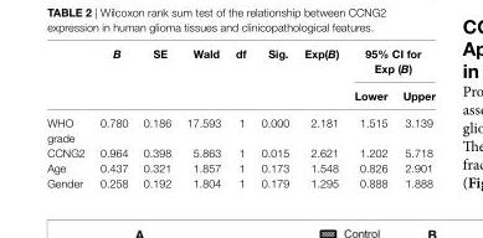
<table><thead><tr><td rowspan="2"></td><td rowspan="2">B</td><td rowspan="2">se</td><td rowspan="2">Wald</td><td rowspan="2">df</td><td rowspan="2">sig.</td><td rowspan="2">exp(B)</td><td colspan="2">95% ci for exp (B)</td></tr><tr><td>lower</td><td>Upper</td></tr></thead><tbody><tr><td>WHO grade</td><td>0.780</td><td>0.186</td><td>17.593</td><td>1</td><td>0.000</td><td>2.181</td><td>1.515</td><td>3.139</td></tr><tr><td>CCNG2</td><td>0.964</td><td>0.398</td><td>5.863</td><td>1</td><td>0.015</td><td>2.621</td><td>1.202</td><td>5.718</td></tr><tr><td>Age</td><td>0.437</td><td>0.321</td><td>1.857</td><td>1</td><td>0.173</td><td>1.548</td><td>0.826</td><td>2.901</td></tr><tr><td>Gender</td><td>0.258</td><td>0.192</td><td>1.804</td><td>1</td><td>0.179</td><td>1.295</td><td>0.888</td><td>1.888</td></tr></tbody></table>